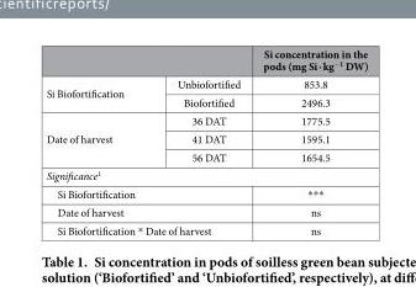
<table><thead><tr><td></td><td></td><td>Si concentration in the pods (mg Si ∙ kg<sup>−1</sup> DW)</td></tr></thead><tbody><tr><td rowspan="2">Si Biofortification</td><td>Unbiofortified</td><td>853.8</td></tr><tr><td>Biofortified</td><td>2496.3</td></tr><tr><td rowspan="3">Date of harvest</td><td>36 DAT</td><td>1775.5</td></tr><tr><td>41 DAT</td><td>1595.1</td></tr><tr><td>56 DAT</td><td>1654.5</td></tr><tr><td colspan="3">Significance<sup>1</sup></td></tr><tr><td colspan="2">Si Biofortification</td><td>* * *</td></tr><tr><td colspan="2">Date of harvest</td><td>ns</td></tr><tr><td colspan="2">Si Biofortification * Date of harvest</td><td>ns</td></tr></tbody></table>